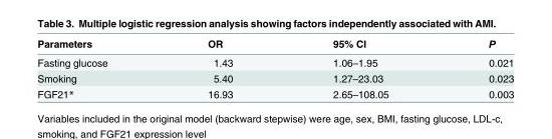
<table><thead><tr><td>Parameters</td><td>OR</td><td>95% CI</td><td>P</td></tr></thead><tbody><tr><td>Fasting glucose</td><td>1.43</td><td>1.06–1.95</td><td>0.021</td></tr><tr><td>Smoking</td><td>5.40</td><td>1.27–23.03</td><td>0.023</td></tr><tr><td>FGF21*</td><td>16.93</td><td>2.65–108.05</td><td>0.003</td></tr></tbody></table>